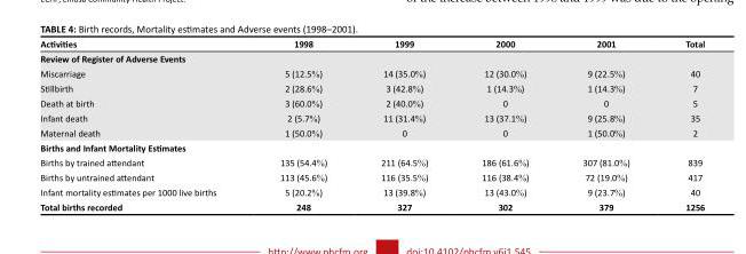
<table><thead><tr><td>Activities</td><td>1998</td><td>1999</td><td>2000</td><td>2001</td><td>Total</td></tr></thead><tbody><tr><td colspan="6">Review of Register of Adverse Events</td></tr><tr><td>Miscarriage</td><td>5 (12.5%)</td><td>14 (35.0%)</td><td>12 (30.0%)</td><td>9 (22.5%)</td><td>40</td></tr><tr><td>Stillbirth</td><td>2 (28.6%)</td><td>3 (42.8%)</td><td>1 (14.3%)</td><td>1 (14.3%)</td><td>7</td></tr><tr><td>Death at birth</td><td>3 (60.0%)</td><td>2 (40.0%)</td><td>0</td><td>0</td><td>5</td></tr><tr><td>Infant death</td><td>2 (5.7%)</td><td>11 (31.4%)</td><td>13 (37.1%)</td><td>9 (25.8%)</td><td>35</td></tr><tr><td>Maternal death</td><td>1 (50.0%)</td><td>0</td><td>0</td><td>1 (50.0%)</td><td>2</td></tr><tr><td colspan="6">Births and Infant Mortality Estimates</td></tr><tr><td>Births by trained attendant</td><td>135 (54.4%)</td><td>211 (64.5%)</td><td>186 (61.6%)</td><td>307 (81.0%)</td><td>839</td></tr><tr><td>Births by untrained attendant</td><td>113 (45.6%)</td><td>116 (35.5%)</td><td>116 (38.4%)</td><td>72 (19.0%)</td><td>417</td></tr><tr><td>Infant mortality estimates per 1000 live births</td><td>5 (20.2%)</td><td>13 (39.8%)</td><td>13 (43.0%)</td><td>9 (23.7%)</td><td>40</td></tr><tr><td>Total births recorded</td><td>248</td><td>327</td><td>302</td><td>379</td><td>1256</td></tr></tbody></table>